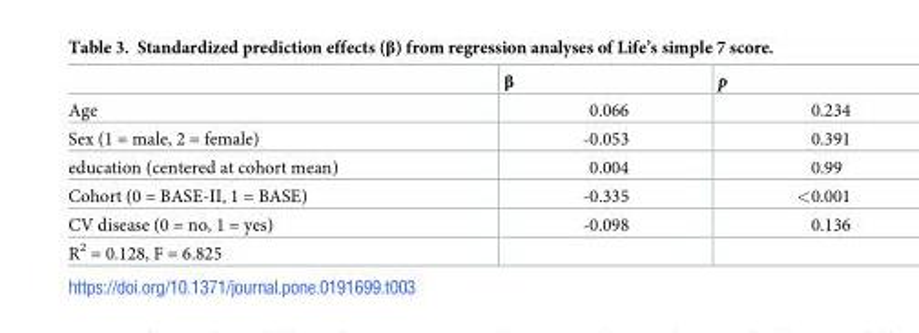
<table><thead><tr><td></td><td>β</td><td>p</td></tr></thead><tbody><tr><td>Age</td><td>0.066</td><td>0.234</td></tr><tr><td>Sex (1 = male, 2 = female)</td><td>-0.053</td><td>0.391</td></tr><tr><td>education (centered at cohort mean)</td><td>0.004</td><td>0.99</td></tr><tr><td>Cohort (0 = BASE-II, 1 = BASE)</td><td>-0.335</td><td>&lt;0.001</td></tr><tr><td>CV disease (0 = no, 1 = yes)</td><td>-0.098</td><td>0.136</td></tr><tr><td>R<sup>2</sup> = 0.128, F = 6.825</td><td></td><td></td></tr></tbody></table>